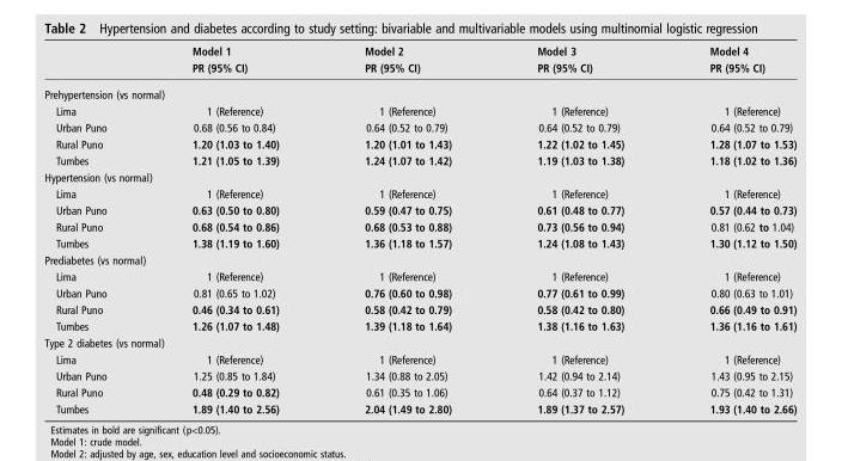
<table><thead><tr><td rowspan="2"></td><td rowspan="2">Model 1 PR (95% CI)</td><td rowspan="2">Model 2 PR (95% CI)</td><td rowspan="2">Model 3 PR (95% CI)</td><td rowspan="2">Model 4 PR (95% CI)</td></tr><tr></tr></thead><tbody><tr><td colspan="5">Prehypertension (vs normal)</td></tr><tr><td>Lima</td><td>1 (Reference)</td><td>1 (Reference)</td><td>1 (Reference)</td><td>1 (Reference)</td></tr><tr><td>Urban Puno</td><td>0.68 (0.56 to 0.84)</td><td>0.64 (0.52 to 0.79)</td><td>0.64 (0.52 to 0.79)</td><td>0.64 (0.52 to 0.79)</td></tr><tr><td>Rural Puno</td><td>1.20 (1.03 to 1.40)</td><td>1.20 (1.01 to 1.43)</td><td>1.22 (1.02 to 1.45)</td><td>1.28 (1.07 to 1.53)</td></tr><tr><td>Tumbes</td><td>1.21 (1.05 to 1.39)</td><td>1.24 (1.07 to 1.42)</td><td>1.19 (1.03 to 1.38)</td><td>1.18 (1.02 to 1.36)</td></tr><tr><td colspan="5">Hypertension (vs normal)</td></tr><tr><td>Lima</td><td>1 (Reference)</td><td>1 (Reference)</td><td>1 (Reference)</td><td>1 (Reference)</td></tr><tr><td>Urban Puno</td><td>0.63 (0.50 to 0.80)</td><td>0.59 (0.47 to 0.75)</td><td>0.61 (0.48 to 0.77)</td><td>0.57 (0.44 to 0.73)</td></tr><tr><td>Rural Puno</td><td>0.68 (0.54 to 0.86)</td><td>0.68 (0.53 to 0.88)</td><td>0.73 (0.56 to 0.94)</td><td>0.81 (0.62 to 1.04)</td></tr><tr><td>Tumbes</td><td>1.38 (1.19 to 1.60)</td><td>1.36 (1.18 to 1.57)</td><td>1.24 (1.08 to 1.43)</td><td>1.30 (1.12 to 1.50)</td></tr><tr><td colspan="5">Prediabetes (vs normal)</td></tr><tr><td>Lima</td><td>1 (Reference)</td><td>1 (Reference)</td><td>1 (Reference)</td><td>1 (Reference)</td></tr><tr><td>Urban Puno</td><td>0.81 (0.65 to 1.02)</td><td>0.76 (0.60 to 0.98)</td><td>0.77 (0.61 to 0.99)</td><td>0.80 (0.63 to 1.01)</td></tr><tr><td>Rural Puno</td><td>0.46 (0.34 to 0.61)</td><td>0.58 (0.42 to 0.79)</td><td>0.58 (0.42 to 0.80)</td><td>0.66 (0.49 to 0.91)</td></tr><tr><td>Tumbes</td><td>1.26 (1.07 to 1.48)</td><td>1.39 (1.18 to 1.64)</td><td>1.38 (1.16 to 1.63)</td><td>1.36 (1.16 to 1.61)</td></tr><tr><td colspan="5">Type 2 diabetes (vs normal)</td></tr><tr><td>Lima</td><td>1 (Reference)</td><td>1 (Reference)</td><td>1 (Reference)</td><td>1 (Reference)</td></tr><tr><td>Urban Puno</td><td>1.25 (0.85 to 1.84)</td><td>1.34 (0.88 to 2.05)</td><td>1.42 (0.94 to 2.14)</td><td>1.43 (0.95 to 2.15)</td></tr><tr><td>Rural Puno</td><td>0.48 (0.29 to 0.82)</td><td>0.61 (0.35 to 1.06)</td><td>0.64 (0.37 to 1.12)</td><td>0.75 (0.42 to 1.31)</td></tr><tr><td>Tumbes</td><td>1.89 (1.40 to 2.56)</td><td>2.04 (1.49 to 2.80)</td><td>1.89 (1.37 to 2.57)</td><td>1.93 (1.40 to 2.66)</td></tr></tbody></table>